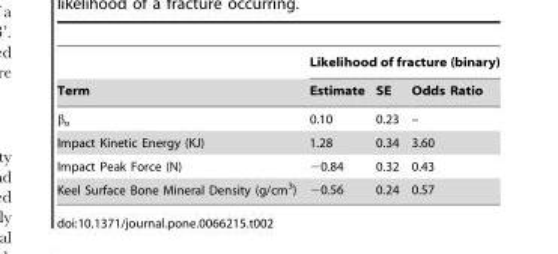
<table><thead><tr><td rowspan="2">Term</td><td colspan="3">Likelihood of fracture (binary)</td></tr><tr><td>Estimate</td><td>SE</td><td>Odds Ratio</td></tr></thead><tbody><tr><td>β<sub>o</sub></td><td>0.10</td><td>0.23</td><td>–</td></tr><tr><td>Impact Kinetic Energy (KJ)</td><td>1.28</td><td>0.34</td><td>3.60</td></tr><tr><td>Impact Peak Force (N)</td><td>−0.84</td><td>0.32</td><td>0.43</td></tr><tr><td>Keel Surface Bone Mineral Density (g/cm<sup>3</sup>)</td><td>−0.56</td><td>0.24</td><td>0.57</td></tr></tbody></table>